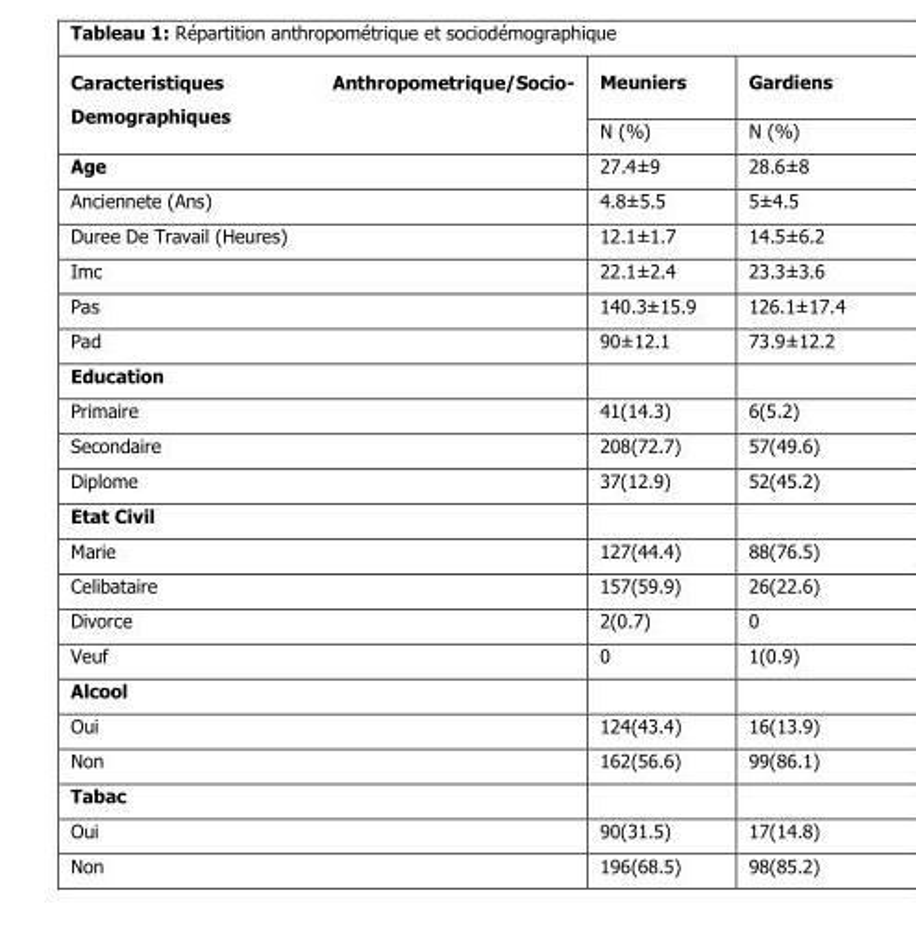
<table><thead><tr><td rowspan="2">Caracteristiques Anthropometrique/Socio- Demographiques</td><td rowspan="2">Meuniers N (%)</td><td rowspan="2">Gardiens N (%)</td></tr><tr></tr></thead><tbody><tr><td>Age</td><td>27.4±9</td><td>28.6±8</td></tr><tr><td>Anciennete (Ans)</td><td>4.8±5.5</td><td>5±4.5</td></tr><tr><td>Duree De Travail (Heures)</td><td>12.1±1.7</td><td>14.5±6.2</td></tr><tr><td>Imc</td><td>22.1±2.4</td><td>23.3±3.6</td></tr><tr><td>Pas</td><td>140.3±15.9</td><td>126.1±17.4</td></tr><tr><td>Pad</td><td>90±12.1</td><td>73.9±12.2</td></tr><tr><td colspan="3">Education</td></tr><tr><td>Primaire</td><td>41(14.3)</td><td>6(5.2)</td></tr><tr><td>Secondaire</td><td>208(72.7)</td><td>57(49.6)</td></tr><tr><td>Diplome</td><td>37(12.9)</td><td>52(45.2)</td></tr><tr><td colspan="3">Etat Civil</td></tr><tr><td>Marie</td><td>127(44.4)</td><td>88(76.5)</td></tr><tr><td>Celibataire</td><td>157(59.9)</td><td>26(22.6)</td></tr><tr><td>Divorce</td><td>2(0.7)</td><td>0</td></tr><tr><td>Veuf</td><td>0</td><td>1(0.9)</td></tr><tr><td colspan="3">Alcool</td></tr><tr><td>Oui</td><td>124(43.4)</td><td>16(13.9)</td></tr><tr><td>Non</td><td>162(56.6)</td><td>99(86.1)</td></tr><tr><td colspan="3">Tabac</td></tr><tr><td>Oui</td><td>90(31.5)</td><td>17(14.8)</td></tr><tr><td>Non</td><td>196(68.5)</td><td>98(85.2)</td></tr></tbody></table>